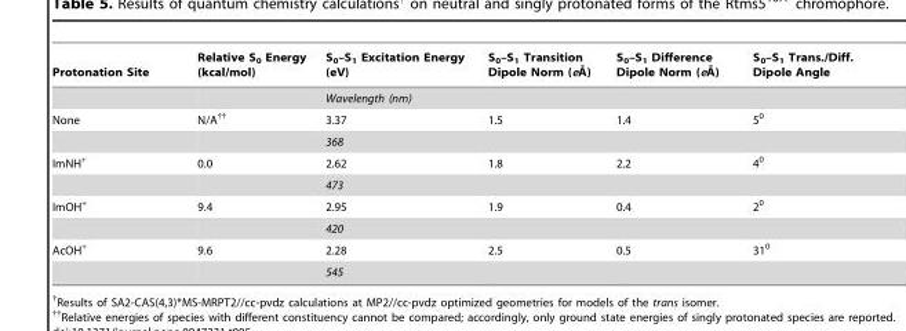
<table><thead><tr><td>Protonation Site</td><td>Relative S<sub>0</sub> Energy (kcal/mol)</td><td>S<sub>0</sub>–S<sub>1</sub> Excitation Energy (eV)</td><td>S0–S1 Transition Dipole Norm (eA˚ )</td><td>S0–S1 Difference Dipole Norm (eA˚ )</td><td>S<sub>0</sub>–S<sub>1</sub> Trans./Diff. Dipole Angle</td></tr></thead><tbody><tr><td></td><td></td><td>Wavelength (nm)</td><td></td><td></td><td></td></tr><tr><td rowspan="2">None</td><td>N/A††</td><td>3.37</td><td>1.5</td><td>1.4</td><td>5<sup>0</sup></td></tr><tr><td></td><td>368</td><td></td><td></td><td></td></tr><tr><td rowspan="2">ImNH<sup>+</sup></td><td>0.0</td><td>2.62</td><td>1.8</td><td>2.2</td><td>4<sup>0</sup></td></tr><tr><td></td><td>473</td><td></td><td></td><td></td></tr><tr><td rowspan="2">ImOH<sup>+</sup></td><td>9.4</td><td>2.95</td><td>1.9</td><td>0.4</td><td>2<sup>0</sup></td></tr><tr><td></td><td>420</td><td></td><td></td><td></td></tr><tr><td rowspan="2">AcOH<sup>+</sup></td><td>9.6</td><td>2.28</td><td>2.5</td><td>0.5</td><td>31<sup>0</sup></td></tr><tr><td></td><td>545</td><td></td><td></td><td></td></tr></tbody></table>